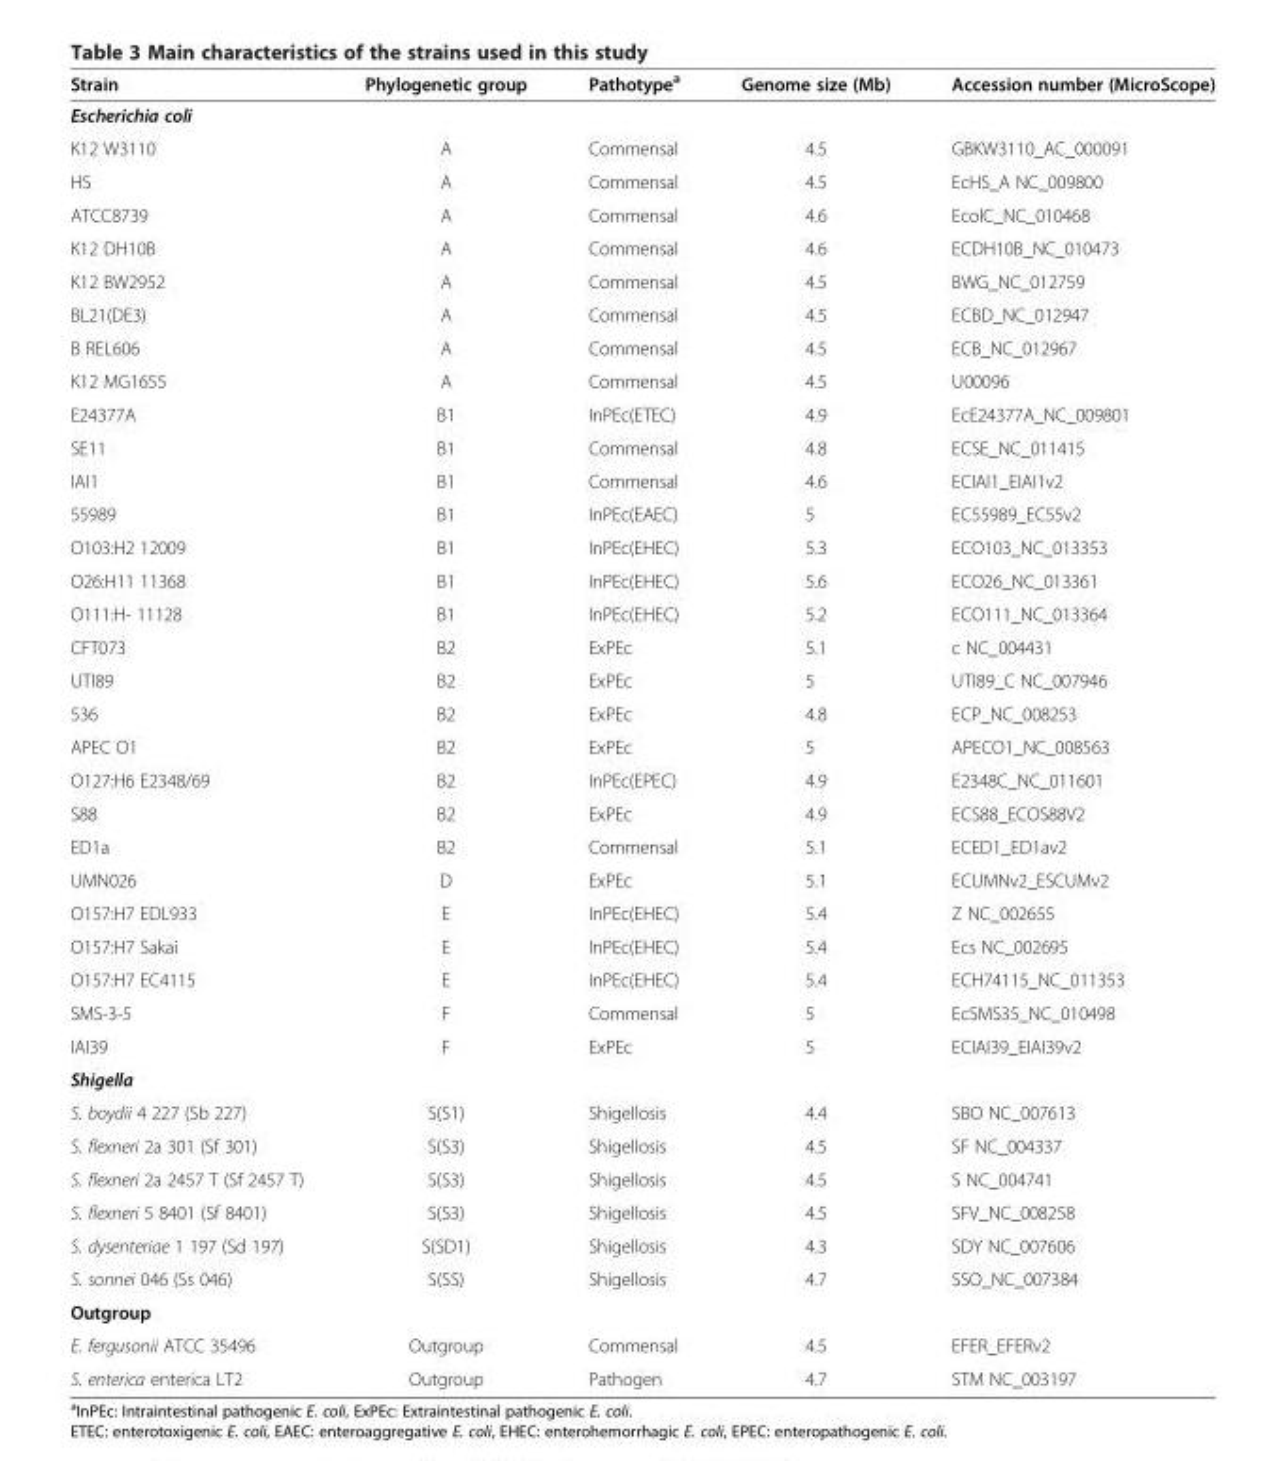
<table><thead><tr><td>Strain</td><td>Phylogenetic group</td><td>Pathotype<sup>a</sup></td><td>Genome size (Mb)</td><td>Accession number (MicroScope)</td></tr></thead><tbody><tr><td colspan="5">Escherichia coli</td></tr><tr><td>K12 W3110</td><td>A</td><td>Commensal</td><td>4.5</td><td>GBKW3110_AC_000091</td></tr><tr><td>HS</td><td>A</td><td>Commensal</td><td>4.5</td><td>EcHS_A NC_009800</td></tr><tr><td>ATCC8739</td><td>A</td><td>Commensal</td><td>4.6</td><td>EcolC_NC_010468</td></tr><tr><td>K12 DH10B</td><td>A</td><td>Commensal</td><td>4.6</td><td>ECDH10B_NC_010473</td></tr><tr><td>K12 BW2952</td><td>A</td><td>Commensal</td><td>4.5</td><td>BWG_NC_012759</td></tr><tr><td>BL21(DE3)</td><td>A</td><td>Commensal</td><td>4.5</td><td>ECBD_NC_012947</td></tr><tr><td>B REL606</td><td>A</td><td>Commensal</td><td>4.5</td><td>ECB_NC_012967</td></tr><tr><td>K12 MG1655</td><td>A</td><td>Commensal</td><td>4.5</td><td>U00096</td></tr><tr><td>E24377A</td><td>B1</td><td>InPEc(ETEC)</td><td>4.9</td><td>EcE24377A_NC_009801</td></tr><tr><td>SE11</td><td>B1</td><td>Commensal</td><td>4.8</td><td>ECSE_NC_011415</td></tr><tr><td>IAI1</td><td>B1</td><td>Commensal</td><td>4.6</td><td>ECIAI1_EIAI1v2</td></tr><tr><td>55989</td><td>B1</td><td>InPEc(EAEC)</td><td>5</td><td>EC55989_EC55v2</td></tr><tr><td>O103:H2 12009</td><td>B1</td><td>InPEc(EHEC)</td><td>5.3</td><td>ECO103_NC_013353</td></tr><tr><td>O26:H11 11368</td><td>B1</td><td>InPEc(EHEC)</td><td>5.6</td><td>ECO26_NC_013361</td></tr><tr><td>O111:H- 11128</td><td>B1</td><td>InPEc(EHEC)</td><td>5.2</td><td>ECO111_NC_013364</td></tr><tr><td>CFT073</td><td>B2</td><td>ExPEc</td><td>5.1</td><td>c NC_004431</td></tr><tr><td>UTI89</td><td>B2</td><td>ExPEc</td><td>5</td><td>UTI89_C NC_007946</td></tr><tr><td>536</td><td>B2</td><td>ExPEc</td><td>4.8</td><td>ECP_NC_008253</td></tr><tr><td>APEC O1</td><td>B2</td><td>ExPEc</td><td>5</td><td>APECO1_NC_008563</td></tr><tr><td>O127:H6 E2348/69</td><td>B2</td><td>InPEc(EPEC)</td><td>4.9</td><td>E2348C_NC_011601</td></tr><tr><td>S88</td><td>B2</td><td>ExPEc</td><td>4.9</td><td>ECS88_ECOS88V2</td></tr><tr><td>ED1a</td><td>B2</td><td>Commensal</td><td>5.1</td><td>ECED1_ED1av2</td></tr><tr><td>UMN026</td><td>D</td><td>ExPEc</td><td>5.1</td><td>ECUMNv2_ESCUMv2</td></tr><tr><td>O157:H7 EDL933</td><td>E</td><td>InPEc(EHEC)</td><td>5.4</td><td>Z NC_002655</td></tr><tr><td>O157:H7 Sakai</td><td>E</td><td>InPEc(EHEC)</td><td>5.4</td><td>Ecs NC_002695</td></tr><tr><td>O157:H7 EC4115</td><td>E</td><td>InPEc(EHEC)</td><td>5.4</td><td>ECH74115_NC_011353</td></tr><tr><td>SMS-3-5</td><td>F</td><td>Commensal</td><td>5</td><td>EcSMS35_NC_010498</td></tr><tr><td>IAI39</td><td>F</td><td>ExPEc</td><td>5</td><td>ECIAI39_EIAI39v2</td></tr><tr><td colspan="5">Shigella</td></tr><tr><td>S. boydii 4 227 (Sb 227)</td><td>S(S1)</td><td>Shigellosis</td><td>4.4</td><td>SBO NC_007613</td></tr><tr><td>S. flexneri 2a 301 (Sf 301)</td><td>S(S3)</td><td>Shigellosis</td><td>4.5</td><td>SF NC_004337</td></tr><tr><td>S. flexneri 2a 2457 T (Sf 2457 T)</td><td>S(S3)</td><td>Shigellosis</td><td>4.5</td><td>S NC_004741</td></tr><tr><td>S. flexneri 5 8401 (Sf 8401)</td><td>S(S3)</td><td>Shigellosis</td><td>4.5</td><td>SFV_NC_008258</td></tr><tr><td>S. dysenteriae 1 197 (Sd 197)</td><td>S(SD1)</td><td>Shigellosis</td><td>4.3</td><td>SDY NC_007606</td></tr><tr><td>S. sonnei 046 (Ss 046)</td><td>S(SS)</td><td>Shigellosis</td><td>4.7</td><td>SSO_NC_007384</td></tr><tr><td colspan="5">Outgroup</td></tr><tr><td>E. fergusonii ATCC 35496</td><td>Outgroup</td><td>Commensal</td><td>4.5</td><td>EFER_EFERv2</td></tr><tr><td>S. enterica enterica LT2</td><td>Outgroup</td><td>Pathogen</td><td>4.7</td><td>STM NC_003197</td></tr></tbody></table>